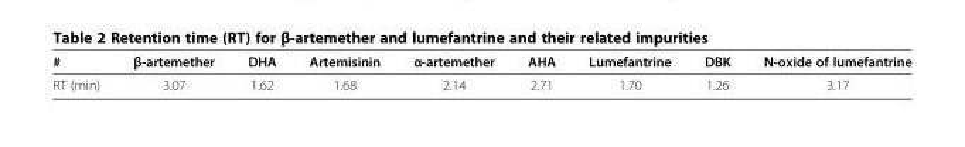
<table><thead><tr><td>#</td><td>β-artemether</td><td>DHA</td><td>Artemisinin</td><td>α-artemether</td><td>AHA</td><td>Lumefantrine</td><td>DBK</td><td>N-oxide of lumefantrine</td></tr></thead><tbody><tr><td>RT (min)</td><td>3.07</td><td>1.62</td><td>1.68</td><td>2.14</td><td>2.71</td><td>1.70</td><td>1.26</td><td>3.17</td></tr></tbody></table>